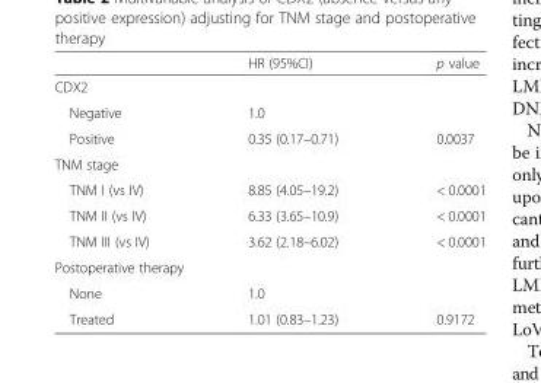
<table><thead><tr><td></td><td>HR (95%CI)</td><td>p value</td></tr></thead><tbody><tr><td colspan="3">CDX2</td></tr><tr><td>Negative</td><td>1.0</td><td></td></tr><tr><td>Positive</td><td>0.35 (0.17–0.71)</td><td>0.0037</td></tr><tr><td colspan="3">TNM stage</td></tr><tr><td>TNM I (vs IV)</td><td>8.85 (4.05–19.2)</td><td>&lt; 0.0001</td></tr><tr><td>TNM II (vs IV)</td><td>6.33 (3.65–10.9)</td><td>&lt; 0.0001</td></tr><tr><td>TNM III (vs IV)</td><td>3.62 (2.18–6.02)</td><td>&lt; 0.0001</td></tr><tr><td colspan="3">Postoperative therapy</td></tr><tr><td>None</td><td>1.0</td><td></td></tr><tr><td>Treated</td><td>1.01 (0.83–1.23)</td><td>0.9172</td></tr></tbody></table>